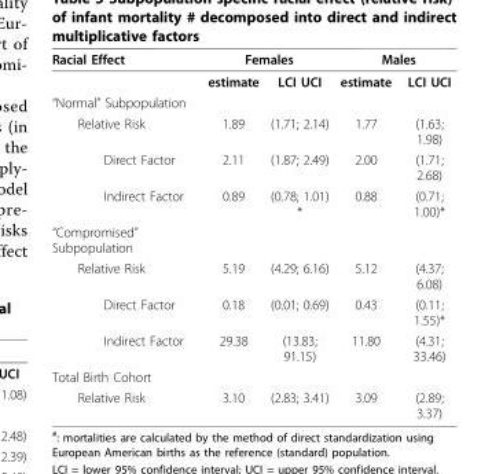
<table><tbody><tr><td rowspan="2">Racial Effect</td><td colspan="2">Females</td><td colspan="2">Males</td></tr><tr><td>estimate</td><td>LCI UCI</td><td>estimate</td><td>LCI UCI</td></tr><tr><td colspan="5">“Normal” Subpopulation</td></tr><tr><td>Relative Risk</td><td>1.89</td><td>(1.71; 2.14)</td><td>1.77</td><td>(1.63; 1.98)</td></tr><tr><td>Direct Factor</td><td>2.11</td><td>(1.87; 2.49)</td><td>2.00</td><td>(1.71; 2.68)</td></tr><tr><td>Indirect Factor</td><td>0.89</td><td>(0.78; 1.01) *</td><td>0.88</td><td>(0.71; 1.00)*</td></tr><tr><td colspan="5">“Compromised” Subpopulation</td></tr><tr><td>Relative Risk</td><td>5.19</td><td>(4.29; 6.16)</td><td>5.12</td><td>(4.37; 6.08)</td></tr><tr><td>Direct Factor</td><td>0.18</td><td>(0.01; 0.69)</td><td>0.43</td><td>(0.11; 1.55)*</td></tr><tr><td>Indirect Factor</td><td>29.38</td><td>(13.83; 91.15)</td><td>11.80</td><td>(4.31; 33.46)</td></tr><tr><td colspan="5">Total Birth Cohort</td></tr><tr><td>Relative Risk</td><td>3.10</td><td>(2.83; 3.41)</td><td>3.09</td><td>(2.89; 3.37)</td></tr></tbody></table>